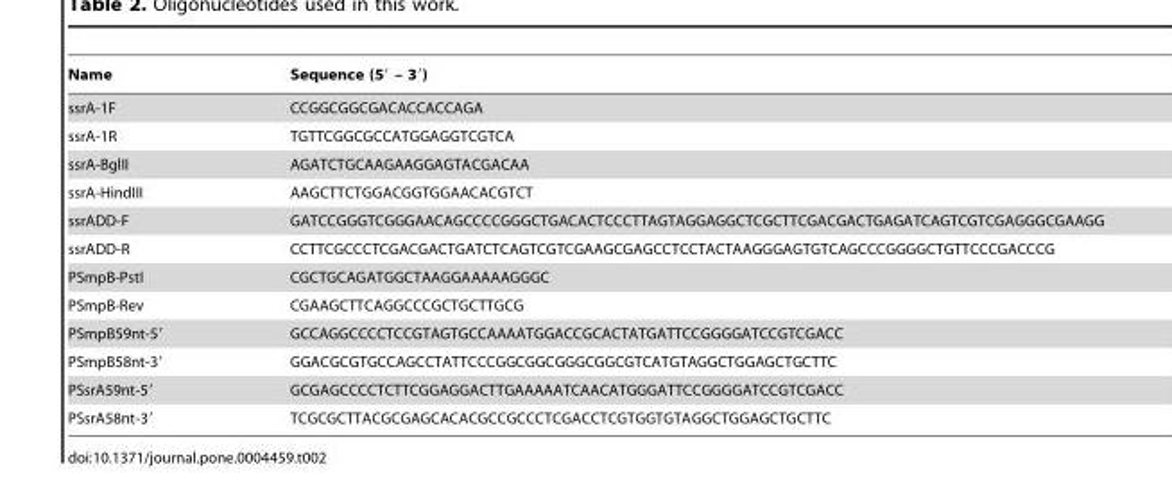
<table><thead><tr><td>Name</td><td>Sequence (5′ – 3′)</td></tr></thead><tbody><tr><td>ssrA-1F</td><td>CCGGCGGCGACACCACCAGA</td></tr><tr><td>ssrA-1R</td><td>TGTTCGGCGCCATGGAGGTCGTCA</td></tr><tr><td>ssrA-BglII</td><td>AGATCTGCAAGAAGGAGTACGACAA</td></tr><tr><td>ssrA-HindIII</td><td>AAGCTTCTGGACGGTGGAACACGTCT</td></tr><tr><td>ssrADD-F</td><td>GATCCGGGTCGGGAACAGCCCCGGGCTGACACTCCCTTAGTAGGAGGCTCGCTTCGACGACTGAGATCAGTCGTCGAGGGCGAAGG</td></tr><tr><td>ssrADD-R</td><td>CCTTCGCCCTCGACGACTGATCTCAGTCGTCGAAGCGAGCCTCCTACTAAGGGAGTGTCAGCCCGGGGCTGTTCCCGACCCG</td></tr><tr><td>PSmpB-PstI</td><td>CGCTGCAGATGGCTAAGGAAAAAGGGC</td></tr><tr><td>PSmpB-Rev</td><td>CGAAGCTTCAGGCCCGCTGCTTGCG</td></tr><tr><td>PSmpB59nt-5′</td><td>GCCAGGCCCCTCCGTAGTGCCAAAATGGACCGCACTATGATTCCGGGGATCCGTCGACC</td></tr><tr><td>PSmpB58nt-3′</td><td>GGACGCGTGCCAGCCTATTCCCGGCGGCGGGCGGCGTCATGTAGGCTGGAGCTGCTTC</td></tr><tr><td>PSsrA59nt-5′</td><td>GCGAGCCCCTCTTCGGAGGACTTGAAAAATCAACATGGGATTCCGGGGATCCGTCGACC</td></tr><tr><td>PSsrA58nt-3′</td><td>TCGCGCTTACGCGAGCACACGCCGCCCTCGACCTCGTGGTGTAGGCTGGAGCTGCTTC</td></tr></tbody></table>